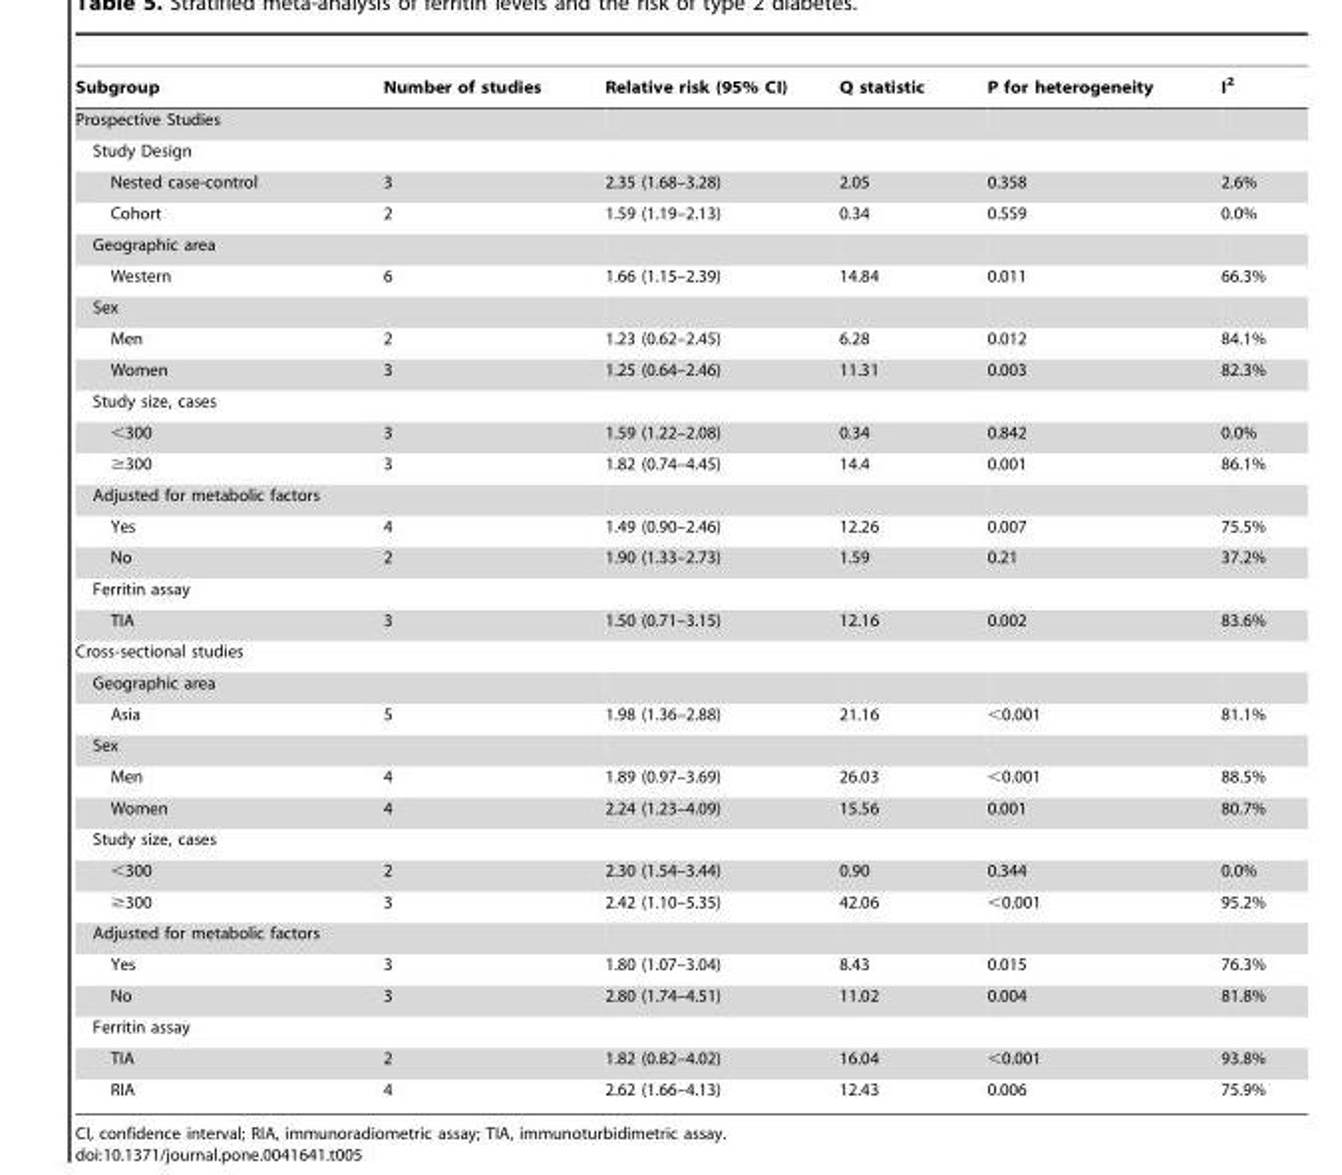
<table><thead><tr><td>Subgroup</td><td>Number of studies</td><td>Relative risk (95% CI)</td><td>Q statistic</td><td>P for heterogeneity</td><td>I<sup>2</sup></td></tr></thead><tbody><tr><td colspan="6">Prospective Studies</td></tr><tr><td colspan="6">Study Design</td></tr><tr><td>Nested case-control</td><td>3</td><td>2.35 (1.68–3.28)</td><td>2.05</td><td>0.358</td><td>2.6%</td></tr><tr><td>Cohort</td><td>2</td><td>1.59 (1.19–2.13)</td><td>0.34</td><td>0.559</td><td>0.0%</td></tr><tr><td colspan="6">Geographic area</td></tr><tr><td>Western</td><td>6</td><td>1.66 (1.15–2.39)</td><td>14.84</td><td>0.011</td><td>66.3%</td></tr><tr><td colspan="6">Sex</td></tr><tr><td>Men</td><td>2</td><td>1.23 (0.62–2.45)</td><td>6.28</td><td>0.012</td><td>84.1%</td></tr><tr><td>Women</td><td>3</td><td>1.25 (0.64–2.46)</td><td>11.31</td><td>0.003</td><td>82.3%</td></tr><tr><td colspan="6">Study size, cases</td></tr><tr><td>&lt;300</td><td>3</td><td>1.59 (1.22–2.08)</td><td>0.34</td><td>0.842</td><td>0.0%</td></tr><tr><td>≥300</td><td>3</td><td>1.82 (0.74–4.45)</td><td>14.4</td><td>0.001</td><td>86.1%</td></tr><tr><td colspan="6">Adjusted for metabolic factors</td></tr><tr><td>Yes</td><td>4</td><td>1.49 (0.90–2.46)</td><td>12.26</td><td>0.007</td><td>75.5%</td></tr><tr><td>No</td><td>2</td><td>1.90 (1.33–2.73)</td><td>1.59</td><td>0.21</td><td>37.2%</td></tr><tr><td colspan="6">Ferritin assay</td></tr><tr><td>TIA</td><td>3</td><td>1.50 (0.71–3.15)</td><td>12.16</td><td>0.002</td><td>83.6%</td></tr><tr><td colspan="6">Cross-sectional studies</td></tr><tr><td colspan="6">Geographic area</td></tr><tr><td>Asia</td><td>5</td><td>1.98 (1.36–2.88)</td><td>21.16</td><td>&lt;0.001</td><td>81.1%</td></tr><tr><td colspan="6">Sex</td></tr><tr><td>Men</td><td>4</td><td>1.89 (0.97–3.69)</td><td>26.03</td><td>&lt;0.001</td><td>88.5%</td></tr><tr><td>Women</td><td>4</td><td>2.24 (1.23–4.09)</td><td>15.56</td><td>0.001</td><td>80.7%</td></tr><tr><td colspan="6">Study size, cases</td></tr><tr><td>&lt;300</td><td>2</td><td>2.30 (1.54–3.44)</td><td>0.90</td><td>0.344</td><td>0.0%</td></tr><tr><td>≥300</td><td>3</td><td>2.42 (1.10–5.35)</td><td>42.06</td><td>&lt;0.001</td><td>95.2%</td></tr><tr><td colspan="6">Adjusted for metabolic factors</td></tr><tr><td>Yes</td><td>3</td><td>1.80 (1.07–3.04)</td><td>8.43</td><td>0.015</td><td>76.3%</td></tr><tr><td>No</td><td>3</td><td>2.80 (1.74–4.51)</td><td>11.02</td><td>0.004</td><td>81.8%</td></tr><tr><td colspan="6">Ferritin assay</td></tr><tr><td>TIA</td><td>2</td><td>1.82 (0.82–4.02)</td><td>16.04</td><td>&lt;0.001</td><td>93.8%</td></tr><tr><td>RIA</td><td>4</td><td>2.62 (1.66–4.13)</td><td>12.43</td><td>0.006</td><td>75.9%</td></tr></tbody></table>